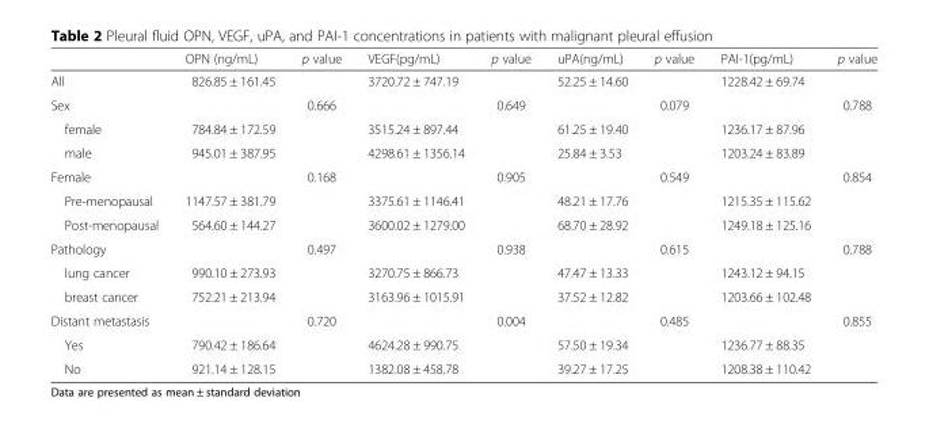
<table><thead><tr><td></td><td>OPN (ng/mL)</td><td>p value</td><td>VEGF(pg/mL)</td><td>p value</td><td>uPA(ng/mL)</td><td>p value</td><td>PAI-1(pg/mL)</td><td>p value</td></tr></thead><tbody><tr><td>All</td><td>826.85 ± 161.45</td><td></td><td>3720.72 ± 747.19</td><td></td><td>52.25 ± 14.60</td><td></td><td>1228.42 ± 69.74</td><td></td></tr><tr><td>Sex</td><td></td><td>0.666</td><td></td><td>0.649</td><td></td><td>0.079</td><td></td><td>0.788</td></tr><tr><td>female</td><td>784.84 ± 172.59</td><td></td><td>3515.24 ± 897.44</td><td></td><td>61.25 ± 19.40</td><td></td><td>1236.17 ± 87.96</td><td></td></tr><tr><td>male</td><td>945.01 ± 387.95</td><td></td><td>4298.61 ± 1356.14</td><td></td><td>25.84 ± 3.53</td><td></td><td>1203.24 ± 83.89</td><td></td></tr><tr><td>Female</td><td></td><td>0.168</td><td></td><td>0.905</td><td></td><td>0.549</td><td></td><td>0.854</td></tr><tr><td>Pre-menopausal</td><td>1147.57 ± 381.79</td><td></td><td>3375.61 ± 1146.41</td><td></td><td>48.21 ± 17.76</td><td></td><td>1215.35 ± 115.62</td><td></td></tr><tr><td>Post-menopausal</td><td>564.60 ± 144.27</td><td></td><td>3600.02 ± 1279.00</td><td></td><td>68.70 ± 28.92</td><td></td><td>1249.18 ± 125.16</td><td></td></tr><tr><td>Pathology</td><td></td><td>0.497</td><td></td><td>0.938</td><td></td><td>0.615</td><td></td><td>0.788</td></tr><tr><td>lung cancer</td><td>990.10 ± 273.93</td><td></td><td>3270.75 ± 866.73</td><td></td><td>47.47 ± 13.33</td><td></td><td>1243.12 ± 94.15</td><td></td></tr><tr><td>breast cancer</td><td>752.21 ± 213.94</td><td></td><td>3163.96 ± 1015.91</td><td></td><td>37.52 ± 12.82</td><td></td><td>1203.66 ± 102.48</td><td></td></tr><tr><td>Distant metastasis</td><td></td><td>0.720</td><td></td><td>0.004</td><td></td><td>0.485</td><td></td><td>0.855</td></tr><tr><td>Yes</td><td>790.42 ± 186.64</td><td></td><td>4624.28 ± 990.75</td><td></td><td>57.50 ± 19.34</td><td></td><td>1236.77 ± 88.35</td><td></td></tr><tr><td>No</td><td>921.14 ± 128.15</td><td></td><td>1382.08 ± 458.78</td><td></td><td>39.27 ± 17.25</td><td></td><td>1208.38 ± 110.42</td><td></td></tr></tbody></table>